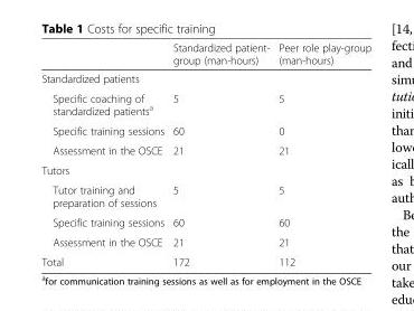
<table><thead><tr><td></td><td>Standardized patient- group (man-hours)</td><td>Peer role play-group (man-hours)</td></tr></thead><tbody><tr><td colspan="3">Standardized patients</td></tr><tr><td>Specific coaching of standardized patients<sup>a</sup></td><td>5</td><td>5</td></tr><tr><td>Specific training sessions</td><td>60</td><td>0</td></tr><tr><td>Assessment in the OSCE</td><td>21</td><td>21</td></tr><tr><td colspan="3">Tutors</td></tr><tr><td>Tutor training and preparation of sessions</td><td>5</td><td>5</td></tr><tr><td>Specific training sessions</td><td>60</td><td>60</td></tr><tr><td>Assessment in the OSCE</td><td>21</td><td>21</td></tr><tr><td>Total</td><td>172</td><td>112</td></tr></tbody></table>